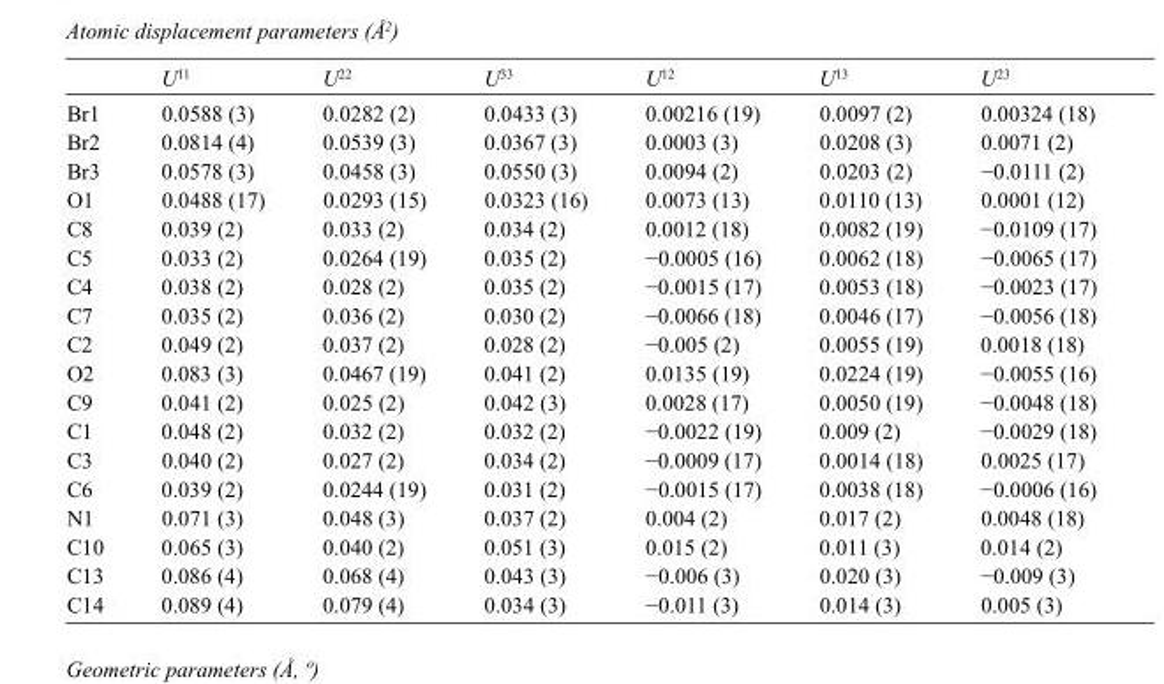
<table><thead><tr><td></td><td>U<sup>11</sup></td><td>U<sup>22</sup></td><td>U<sup>33</sup></td><td>U<sup>12</sup></td><td>U<sup>13</sup></td><td>U<sup>23</sup></td></tr></thead><tbody><tr><td>Br1</td><td>0.0588 (3)</td><td>0.0282 (2)</td><td>0.0433 (3)</td><td>0.00216 (19)</td><td>0.0097 (2)</td><td>0.00324 (18)</td></tr><tr><td>Br2</td><td>0.0814 (4)</td><td>0.0539 (3)</td><td>0.0367 (3)</td><td>0.0003 (3)</td><td>0.0208 (3)</td><td>0.0071 (2)</td></tr><tr><td>Br3</td><td>0.0578 (3)</td><td>0.0458 (3)</td><td>0.0550 (3)</td><td>0.0094 (2)</td><td>0.0203 (2)</td><td>−0.0111 (2)</td></tr><tr><td>O1</td><td>0.0488 (17)</td><td>0.0293 (15)</td><td>0.0323 (16)</td><td>0.0073 (13)</td><td>0.0110 (13)</td><td>0.0001 (12)</td></tr><tr><td>C8</td><td>0.039 (2)</td><td>0.033 (2)</td><td>0.034 (2)</td><td>0.0012 (18)</td><td>0.0082 (19)</td><td>−0.0109 (17)</td></tr><tr><td>C5</td><td>0.033 (2)</td><td>0.0264 (19)</td><td>0.035 (2)</td><td>−0.0005 (16)</td><td>0.0062 (18)</td><td>−0.0065 (17)</td></tr><tr><td>C4</td><td>0.038 (2)</td><td>0.028 (2)</td><td>0.035 (2)</td><td>−0.0015 (17)</td><td>0.0053 (18)</td><td>−0.0023 (17)</td></tr><tr><td>C7</td><td>0.035 (2)</td><td>0.036 (2)</td><td>0.030 (2)</td><td>−0.0066 (18)</td><td>0.0046 (17)</td><td>−0.0056 (18)</td></tr><tr><td>C2</td><td>0.049 (2)</td><td>0.037 (2)</td><td>0.028 (2)</td><td>−0.005 (2)</td><td>0.0055 (19)</td><td>0.0018 (18)</td></tr><tr><td>O2</td><td>0.083 (3)</td><td>0.0467 (19)</td><td>0.041 (2)</td><td>0.0135 (19)</td><td>0.0224 (19)</td><td>−0.0055 (16)</td></tr><tr><td>C9</td><td>0.041 (2)</td><td>0.025 (2)</td><td>0.042 (3)</td><td>0.0028 (17)</td><td>0.0050 (19)</td><td>−0.0048 (18)</td></tr><tr><td>C1</td><td>0.048 (2)</td><td>0.032 (2)</td><td>0.032 (2)</td><td>−0.0022 (19)</td><td>0.009 (2)</td><td>−0.0029 (18)</td></tr><tr><td>C3</td><td>0.040 (2)</td><td>0.027 (2)</td><td>0.034 (2)</td><td>−0.0009 (17)</td><td>0.0014 (18)</td><td>0.0025 (17)</td></tr><tr><td>C6</td><td>0.039 (2)</td><td>0.0244 (19)</td><td>0.031 (2)</td><td>−0.0015 (17)</td><td>0.0038 (18)</td><td>−0.0006 (16)</td></tr><tr><td>N1</td><td>0.071 (3)</td><td>0.048 (3)</td><td>0.037 (2)</td><td>0.004 (2)</td><td>0.017 (2)</td><td>0.0048 (18)</td></tr><tr><td>C10</td><td>0.065 (3)</td><td>0.040 (2)</td><td>0.051 (3)</td><td>0.015 (2)</td><td>0.011 (3)</td><td>0.014 (2)</td></tr><tr><td>C13</td><td>0.086 (4)</td><td>0.068 (4)</td><td>0.043 (3)</td><td>−0.006 (3)</td><td>0.020 (3)</td><td>−0.009 (3)</td></tr><tr><td>C14</td><td>0.089 (4)</td><td>0.079 (4)</td><td>0.034 (3)</td><td>−0.011 (3)</td><td>0.014 (3)</td><td>0.005 (3)</td></tr></tbody></table>